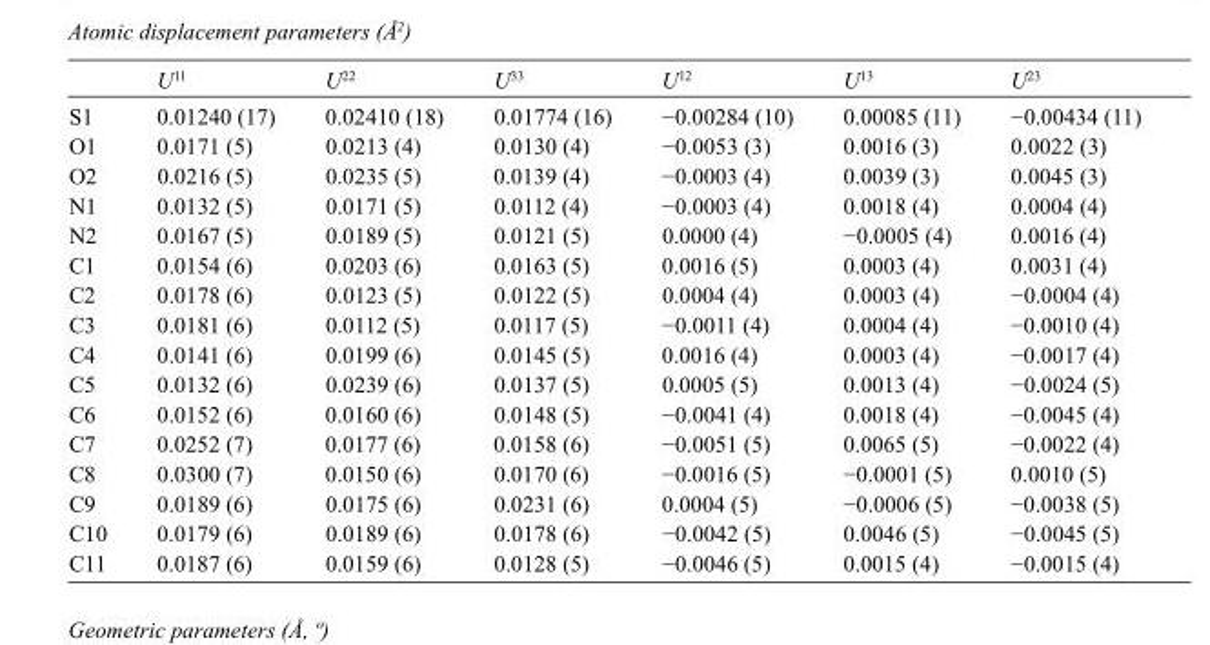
<table><thead><tr><td></td><td>U<sup>11</sup></td><td>U<sup>22</sup></td><td>U<sup>33</sup></td><td>U<sup>12</sup></td><td>U<sup>13</sup></td><td>U<sup>23</sup></td></tr></thead><tbody><tr><td>S1</td><td>0.01240 (17)</td><td>0.02410 (18)</td><td>0.01774 (16)</td><td>−0.00284 (10)</td><td>0.00085 (11)</td><td>−0.00434 (11)</td></tr><tr><td>O1</td><td>0.0171 (5)</td><td>0.0213 (4)</td><td>0.0130 (4)</td><td>−0.0053 (3)</td><td>0.0016 (3)</td><td>0.0022 (3)</td></tr><tr><td>O2</td><td>0.0216 (5)</td><td>0.0235 (5)</td><td>0.0139 (4)</td><td>−0.0003 (4)</td><td>0.0039 (3)</td><td>0.0045 (3)</td></tr><tr><td>N1</td><td>0.0132 (5)</td><td>0.0171 (5)</td><td>0.0112 (4)</td><td>−0.0003 (4)</td><td>0.0018 (4)</td><td>0.0004 (4)</td></tr><tr><td>N2</td><td>0.0167 (5)</td><td>0.0189 (5)</td><td>0.0121 (5)</td><td>0.0000 (4)</td><td>−0.0005 (4)</td><td>0.0016 (4)</td></tr><tr><td>C1</td><td>0.0154 (6)</td><td>0.0203 (6)</td><td>0.0163 (5)</td><td>0.0016 (5)</td><td>0.0003 (4)</td><td>0.0031 (4)</td></tr><tr><td>C2</td><td>0.0178 (6)</td><td>0.0123 (5)</td><td>0.0122 (5)</td><td>0.0004 (4)</td><td>0.0003 (4)</td><td>−0.0004 (4)</td></tr><tr><td>C3</td><td>0.0181 (6)</td><td>0.0112 (5)</td><td>0.0117 (5)</td><td>−0.0011 (4)</td><td>0.0004 (4)</td><td>−0.0010 (4)</td></tr><tr><td>C4</td><td>0.0141 (6)</td><td>0.0199 (6)</td><td>0.0145 (5)</td><td>0.0016 (4)</td><td>0.0003 (4)</td><td>−0.0017 (4)</td></tr><tr><td>C5</td><td>0.0132 (6)</td><td>0.0239 (6)</td><td>0.0137 (5)</td><td>0.0005 (5)</td><td>0.0013 (4)</td><td>−0.0024 (5)</td></tr><tr><td>C6</td><td>0.0152 (6)</td><td>0.0160 (6)</td><td>0.0148 (5)</td><td>−0.0041 (4)</td><td>0.0018 (4)</td><td>−0.0045 (4)</td></tr><tr><td>C7</td><td>0.0252 (7)</td><td>0.0177 (6)</td><td>0.0158 (6)</td><td>−0.0051 (5)</td><td>0.0065 (5)</td><td>−0.0022 (4)</td></tr><tr><td>C8</td><td>0.0300 (7)</td><td>0.0150 (6)</td><td>0.0170 (6)</td><td>−0.0016 (5)</td><td>−0.0001 (5)</td><td>0.0010 (5)</td></tr><tr><td>C9</td><td>0.0189 (6)</td><td>0.0175 (6)</td><td>0.0231 (6)</td><td>0.0004 (5)</td><td>−0.0006 (5)</td><td>−0.0038 (5)</td></tr><tr><td>C10</td><td>0.0179 (6)</td><td>0.0189 (6)</td><td>0.0178 (6)</td><td>−0.0042 (5)</td><td>0.0046 (5)</td><td>−0.0045 (5)</td></tr><tr><td>C11</td><td>0.0187 (6)</td><td>0.0159 (6)</td><td>0.0128 (5)</td><td>−0.0046 (5)</td><td>0.0015 (4)</td><td>−0.0015 (4)</td></tr></tbody></table>